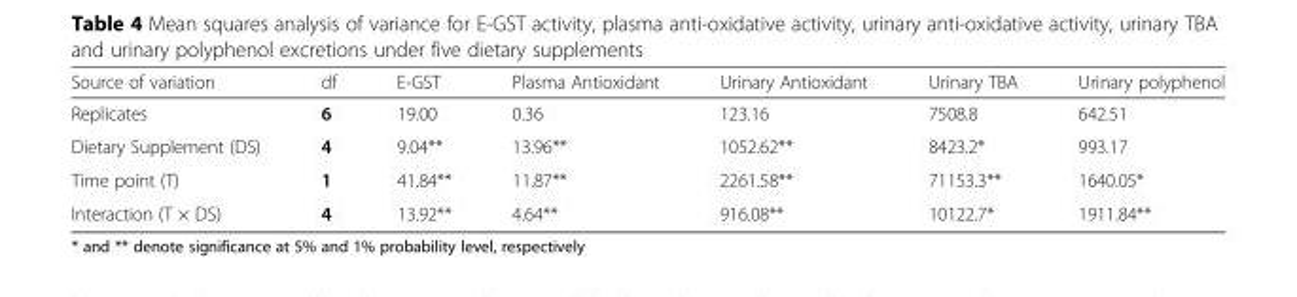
<table><thead><tr><td>Source of variation</td><td>df</td><td>E-GST</td><td>Plasma Antioxidant</td><td>Urinary Antioxidant</td><td>Urinary TBA</td><td>Urinary polyphenol</td></tr></thead><tbody><tr><td>Replicates</td><td>6</td><td>19.00</td><td>0.36</td><td>123.16</td><td>7508.8</td><td>642.51</td></tr><tr><td>Dietary Supplement (DS)</td><td>4</td><td>9.04**</td><td>13.96**</td><td>1052.62**</td><td>8423.2*</td><td>993.17</td></tr><tr><td>Time point (T)</td><td>1</td><td>41.84**</td><td>11.87**</td><td>2261.58**</td><td>71153.3**</td><td>1640.05*</td></tr><tr><td>Interaction (T × DS)</td><td>4</td><td>13.92**</td><td>4.64**</td><td>916.08**</td><td>10122.7*</td><td>1911.84**</td></tr></tbody></table>